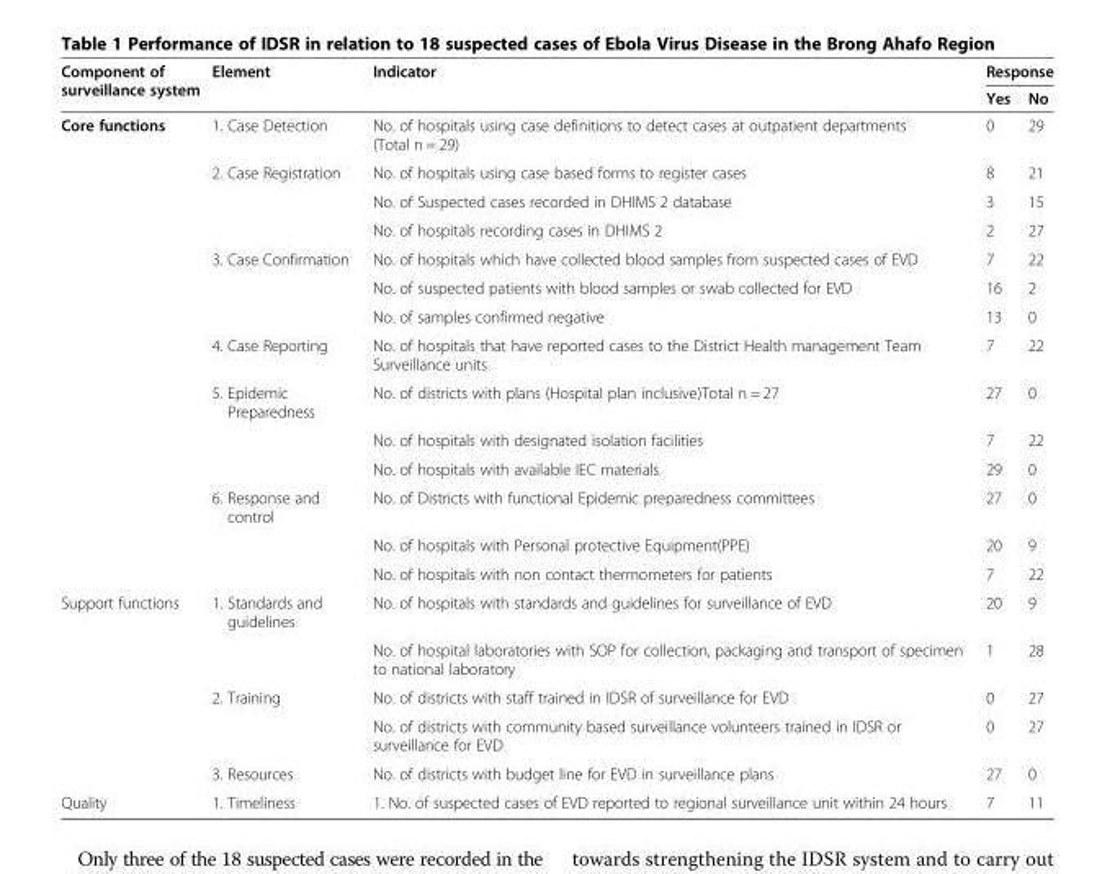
<table><thead><tr><td rowspan="2">Component of surveillance system</td><td rowspan="2">Element</td><td rowspan="2">Indicator</td><td colspan="2">Response</td></tr><tr><td>Yes</td><td>No</td></tr></thead><tbody><tr><td rowspan="14">Core functions</td><td>1. Case Detection</td><td>No. of hospitals using case definitions to detect cases at outpatient departments (Total n = 29)</td><td>0</td><td>29</td></tr><tr><td>2. Case Registration</td><td>No. of hospitals using case based forms to register cases</td><td>8</td><td>21</td></tr><tr><td></td><td>No. of Suspected cases recorded in DHIMS 2 database</td><td>3</td><td>15</td></tr><tr><td></td><td>No. of hospitals recording cases in DHIMS 2</td><td>2</td><td>27</td></tr><tr><td>3. Case Confirmation</td><td>No. of hospitals which have collected blood samples from suspected cases of EVD</td><td>7</td><td>22</td></tr><tr><td></td><td>No. of suspected patients with blood samples or swab collected for EVD</td><td>16</td><td>2</td></tr><tr><td></td><td>No. of samples confirmed negative</td><td>13</td><td>0</td></tr><tr><td>4. Case Reporting</td><td>No. of hospitals that have reported cases to the District Health management Team Surveillance units</td><td>7</td><td>22</td></tr><tr><td>5. Epidemic Preparedness</td><td>No. of districts with plans (Hospital plan inclusive)Total n = 27</td><td>27</td><td>0</td></tr><tr><td></td><td>No. of hospitals with designated isolation facilities</td><td>7</td><td>22</td></tr><tr><td></td><td>No. of hospitals with available IEC materials</td><td>29</td><td>0</td></tr><tr><td>6. Response and control</td><td>No. of Districts with functional Epidemic preparedness committees</td><td>27</td><td>0</td></tr><tr><td></td><td>No. of hospitals with Personal protective Equipment(PPE)</td><td>20</td><td>9</td></tr><tr><td></td><td>No. of hospitals with non contact thermometers for patients</td><td>7</td><td>22</td></tr><tr><td rowspan="5">Support functions</td><td>1. Standards and guidelines</td><td>No. of hospitals with standards and guidelines for surveillance of EVD</td><td>20</td><td>9</td></tr><tr><td></td><td>No. of hospital laboratories with SOP for collection, packaging and transport of specimen to national laboratory</td><td>1</td><td>28</td></tr><tr><td>2. Training</td><td>No. of districts with staff trained in IDSR of surveillance for EVD</td><td>0</td><td>27</td></tr><tr><td></td><td>No. of districts with community based surveillance volunteers trained in IDSR or surveillance for EVD</td><td>0</td><td>27</td></tr><tr><td>3. Resources</td><td>No. of districts with budget line for EVD in surveillance plans</td><td>27</td><td>0</td></tr><tr><td>Quality</td><td>1. Timeliness</td><td>1. No. of suspected cases of EVD reported to regional surveillance unit within 24 hours</td><td>7</td><td>11</td></tr></tbody></table>